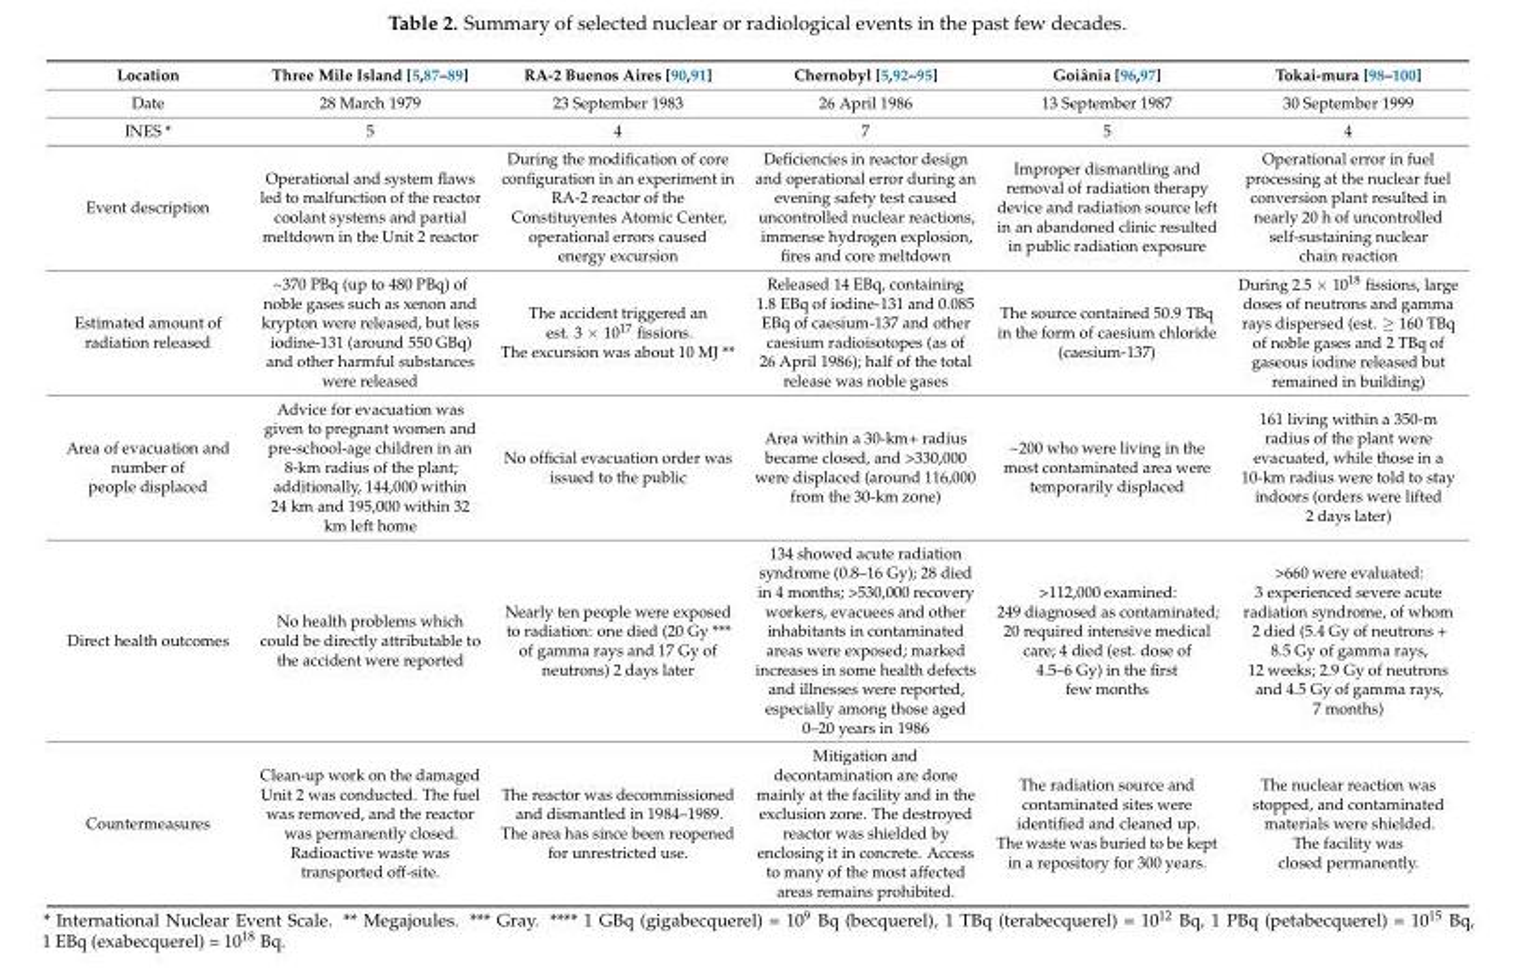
<table><thead><tr><td>Location</td><td>Three Mile Island [5,87–89]</td><td>RA-2 Buenos Aires [90,91]</td><td>Chernobyl [5,92–95]</td><td>Goiânia [96,97]</td><td>Tokai-mura [98–100]</td></tr></thead><tbody><tr><td>Date</td><td>28 March 1979</td><td>23 September 1983</td><td>26 April 1986</td><td>13 September 1987</td><td>30 September 1999</td></tr><tr><td>INES *</td><td>5</td><td>4</td><td>7</td><td>5</td><td>4</td></tr><tr><td>Event description</td><td>Operational and system flaws led to malfunction of the reactor coolant systems and partial meltdown in the Unit 2 reactor</td><td>During the modification of core configuration in an experiment in RA-2 reactor of the Constituyentes Atomic Center, operational errors caused energy excursion</td><td>Deficiencies in reactor design and operational error during an evening safety test caused uncontrolled nuclear reactions, immense hydrogen explosion, fires and core meltdown</td><td>Improper dismantling and removal of radiation therapy device and radiation source left in an abandoned clinic resulted in public radiation exposure</td><td>Operational error in fuel processing at the nuclear fuel conversion plant resulted in nearly 20 h of uncontrolled self-sustaining nuclear chain reaction</td></tr><tr><td>Estimated amount of radiation released</td><td>~370 PBq (up to 480 PBq) of noble gases such as xenon and krypton were released, but less iodine-131 (around 550 GBq) and other harmful substances were released</td><td>The accident triggered an est. 3 × 10<sup>17</sup> fissions. The excursion was about 10 MJ **</td><td>Released 14 EBq, containing 1.8 EBq of iodine-131 and 0.085 EBq of caesium-137 and other caesium radioisotopes (as of 26 April 1986); half of the total release was noble gases</td><td>The source contained 50.9 TBq in the form of caesium chloride (caesium-137)</td><td>During 2.5 × 10<sup>18</sup> fissions, large doses of neutrons and gamma rays dispersed (est. ≥ 160 TBq of noble gases and 2 TBq of gaseous iodine released but remained in building)</td></tr><tr><td>Area of evacuation and number of people displaced</td><td>Advice for evacuation was given to pregnant women and pre-school-age children in an 8-km radius of the plant; additionally, 144,000 within 24 km and 195,000 within 32 km left home</td><td>No official evacuation order was issued to the public</td><td>Area within a 30-km+ radius became closed, and &gt;330,000 were displaced (around 116,000 from the 30-km zone)</td><td>~200 who were living in the most contaminated area were temporarily displaced</td><td>161 living within a 350-m radius of the plant were evacuated, while those in a 10-km radius were told to stay indoors (orders were lifted 2 days later)</td></tr><tr><td>Direct health outcomes</td><td>No health problems which could be directly attributable to the accident were reported</td><td>Nearly ten people were exposed to radiation: one died (20 Gy *** of gamma rays and 17 Gy of neutrons) 2 days later</td><td>134 showed acute radiation syndrome (0.8–16 Gy); 28 died in 4 months; &gt;530,000 recovery workers, evacuees and other inhabitants in contaminated areas were exposed; marked increases in some health defects and illnesses were reported, especially among those aged 0–20 years in 1986</td><td>&gt;112,000 examined: 249 diagnosed as contaminated; 20 required intensive medical care; 4 died (est. dose of 4.5–6 Gy) in the first few months</td><td>&gt;660 were evaluated: 3 experienced severe acute radiation syndrome, of whom 2 died (5.4 Gy of neutrons + 8.5 Gy of gamma rays, 12 weeks; 2.9 Gy of neutrons and 4.5 Gy of gamma rays, 7 months)</td></tr><tr><td>Countermeasures</td><td>Clean-up work on the damaged Unit 2 was conducted. The fuel was removed, and the reactor was permanently closed. Radioactive waste was transported off-site.</td><td>The reactor was decommissioned and dismantled in 1984–1989. The area has since been reopened for unrestricted use.</td><td>Mitigation and decontamination are done mainly at the facility and in the exclusion zone. The destroyed reactor was shielded by enclosing it in concrete. Access to many of the most affected areas remains prohibited.</td><td>The radiation source and contaminated sites were identified and cleaned up. The waste was buried to be kept in a repository for 300 years.</td><td>The nuclear reaction was stopped, and contaminated materials were shielded. The facility was closed permanently.</td></tr></tbody></table>